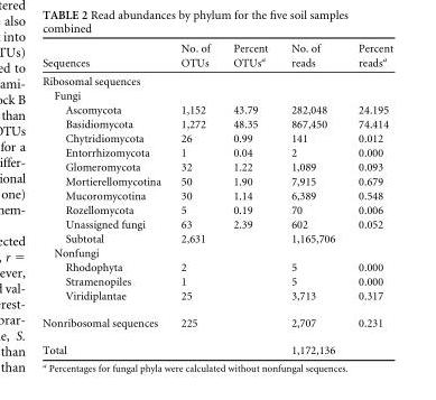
<table><thead><tr><td>Sequences</td><td>No. of OTUs</td><td>Percent OTUs<sup>a</sup></td><td>No. of reads</td><td>Percent reads<sup>a</sup></td></tr></thead><tbody><tr><td colspan="5">Ribosomal sequences</td></tr><tr><td colspan="5">Fungi</td></tr><tr><td>Ascomycota</td><td>1,152</td><td>43.79</td><td>282,048</td><td>24.195</td></tr><tr><td>Basidiomycota</td><td>1,272</td><td>48.35</td><td>867,450</td><td>74.414</td></tr><tr><td>Chytridiomycota</td><td>26</td><td>0.99</td><td>141</td><td>0.012</td></tr><tr><td>Entorrhizomycota</td><td>1</td><td>0.04</td><td>2</td><td>0.000</td></tr><tr><td>Glomeromycota</td><td>32</td><td>1.22</td><td>1,089</td><td>0.093</td></tr><tr><td>Mortierellomycotina</td><td>50</td><td>1.90</td><td>7,915</td><td>0.679</td></tr><tr><td>Mucoromycotina</td><td>30</td><td>1.14</td><td>6,389</td><td>0.548</td></tr><tr><td>Rozellomycota</td><td>5</td><td>0.19</td><td>70</td><td>0.006</td></tr><tr><td>Unassigned fungi</td><td>63</td><td>2.39</td><td>602</td><td>0.052</td></tr><tr><td>Subtotal</td><td>2,631</td><td></td><td>1,165,706</td><td></td></tr><tr><td colspan="5">Nonfungi</td></tr><tr><td>Rhodophyta</td><td>2</td><td></td><td>5</td><td>0.000</td></tr><tr><td>Stramenopiles</td><td>1</td><td></td><td>5</td><td>0.000</td></tr><tr><td>Viridiplantae</td><td>25</td><td></td><td>3,713</td><td>0.317</td></tr><tr><td>Nonribosomal sequences</td><td>225</td><td></td><td>2,707</td><td>0.231</td></tr><tr><td>Total</td><td></td><td></td><td>1,172,136</td><td></td></tr></tbody></table>